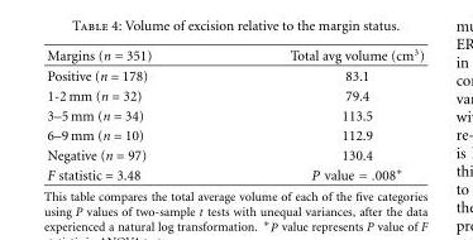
<table><thead><tr><td>Margins (n = 351)</td><td>Total avg volume (cm<sup>3</sup>)</td></tr></thead><tbody><tr><td>Positive (n = 178)</td><td>83.1</td></tr><tr><td>1-2 mm (n = 32)</td><td>79.4</td></tr><tr><td>3–5 mm (n = 34)</td><td>113.5</td></tr><tr><td>6–9 mm (n = 10)</td><td>112.9</td></tr><tr><td>Negative (n = 97)</td><td>130.4</td></tr><tr><td>F statistic = 3.48</td><td>P value = .008∗</td></tr></tbody></table>